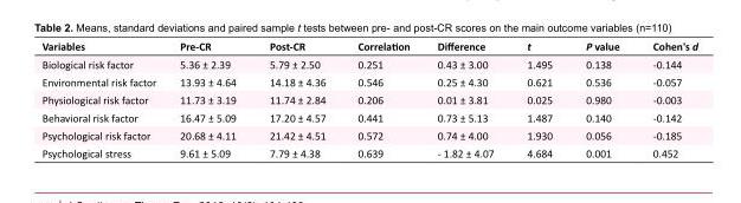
<table><tbody><tr><td>Variables</td><td>Pre-CR</td><td>Post-CR</td><td>Correlation</td><td>Difference</td><td>t</td><td>P value</td><td>Cohen&#x27;s d</td></tr><tr><td>Biological risk factor</td><td>5.36 ± 2.39</td><td>5.79 ± 2.50</td><td>0.251</td><td>0.43 ± 3.00</td><td>1.495</td><td>0.138</td><td>-0.144</td></tr><tr><td>Environmental risk factor</td><td>13.93 ± 4.64</td><td>14.18 ± 4.36</td><td>0.546</td><td>0.25 ± 4.30</td><td>0.621</td><td>0.536</td><td>-0.057</td></tr><tr><td>Physiological risk factor</td><td>11.73 ± 3.19</td><td>11.74 ± 2.84</td><td>0.206</td><td>0.01 ± 3.81</td><td>0.025</td><td>0.980</td><td>-0.003</td></tr><tr><td>Behavioral risk factor</td><td>16.47 ± 5.09</td><td>17.20 ± 4.57</td><td>0.441</td><td>0.73 ± 5.13</td><td>1.487</td><td>0.140</td><td>-0.142</td></tr><tr><td>Psychological risk factor</td><td>20.68 ± 4.11</td><td>21.42 ± 4.51</td><td>0.572</td><td>0.74 ± 4.00</td><td>1.930</td><td>0.056</td><td>-0.185</td></tr><tr><td>Psychological stress</td><td>9.61 ± 5.09</td><td>7.79 ± 4.38</td><td>0.639</td><td>- 1.82 ± 4.07</td><td>4.684</td><td>0.001</td><td>0.452</td></tr></tbody></table>